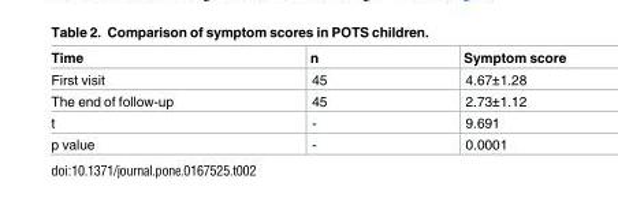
<table><thead><tr><td>Time</td><td>n</td><td>Symptom score</td></tr></thead><tbody><tr><td>First visit</td><td>45</td><td>4.67±1.28</td></tr><tr><td>The end of follow-up</td><td>45</td><td>2.73±1.12</td></tr><tr><td>t</td><td>-</td><td>9.691</td></tr><tr><td>p value</td><td>-</td><td>0.0001</td></tr></tbody></table>